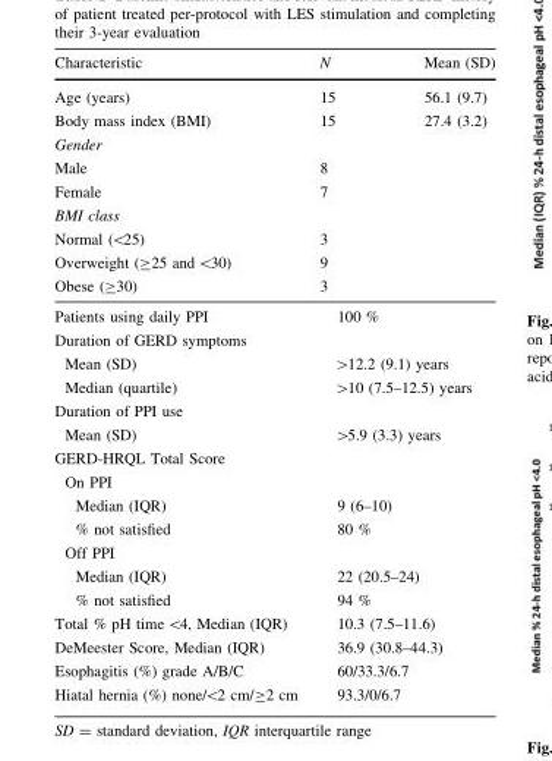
<table><thead><tr><td>Characteristic</td><td>N</td><td>Mean (SD)</td></tr></thead><tbody><tr><td>Age (years)</td><td>15</td><td>56.1 (9.7)</td></tr><tr><td>Body mass index (BMI)</td><td>15</td><td>27.4 (3.2)</td></tr><tr><td colspan="3">Gender</td></tr><tr><td>Male</td><td>8</td><td></td></tr><tr><td>Female</td><td>7</td><td></td></tr><tr><td colspan="3">BMI class</td></tr><tr><td>Normal (&lt;25)</td><td>3</td><td></td></tr><tr><td>Overweight (≥25 and &lt;30)</td><td>9</td><td></td></tr><tr><td>Obese (≥30)</td><td>3</td><td></td></tr><tr><td>Patients using daily PPI</td><td colspan="2">100 %</td></tr><tr><td colspan="3">Duration of GERD symptoms</td></tr><tr><td>Mean (SD)</td><td colspan="2">&gt;12.2 (9.1) years</td></tr><tr><td>Median (quartile)</td><td colspan="2">&gt;10 (7.5–12.5) years</td></tr><tr><td colspan="3">Duration of PPI use</td></tr><tr><td>Mean (SD)</td><td colspan="2">&gt;5.9 (3.3) years</td></tr><tr><td colspan="3">GERD-HRQL Total Score</td></tr><tr><td colspan="3">On PPI</td></tr><tr><td>Median (IQR)</td><td colspan="2">9 (6–10)</td></tr><tr><td>% not satisfied</td><td colspan="2">80 %</td></tr><tr><td colspan="3">Off PPI</td></tr><tr><td>Median (IQR)</td><td colspan="2">22 (20.5–24)</td></tr><tr><td>% not satisfied</td><td colspan="2">94 %</td></tr><tr><td>Total % pH time &lt;4, Median (IQR)</td><td colspan="2">10.3 (7.5–11.6)</td></tr><tr><td>DeMeester Score, Median (IQR)</td><td colspan="2">36.9 (30.8–44.3)</td></tr><tr><td>Esophagitis (%) grade A/B/C</td><td colspan="2">60/33.3/6.7</td></tr><tr><td>Hiatal hernia (%) none/&lt;2 cm/≥2 cm</td><td colspan="2">93.3/0/6.7</td></tr></tbody></table>